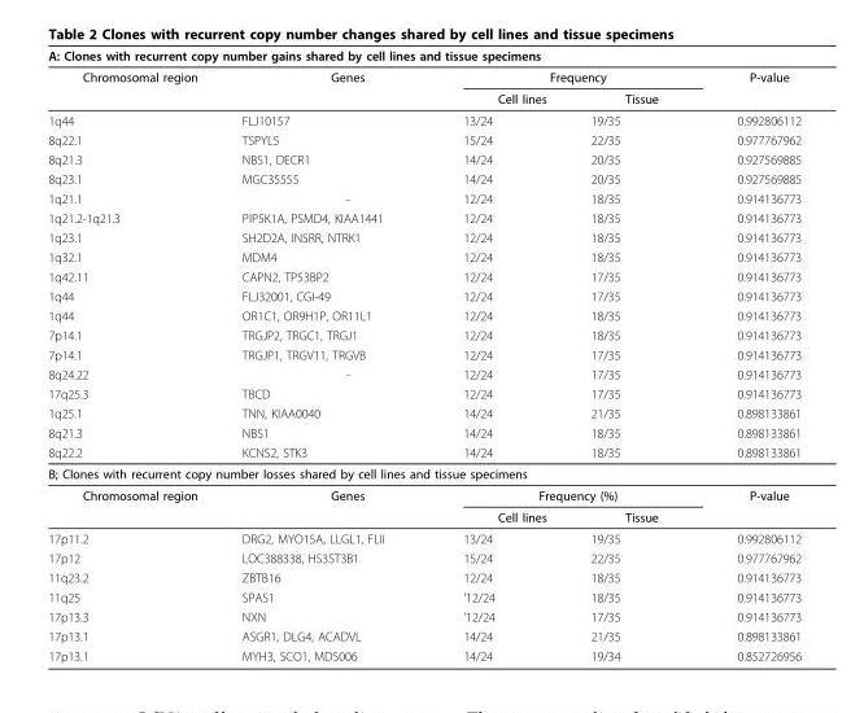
<table><thead><tr><td colspan="5">A: Clones with recurrent copy number gains shared by cell lines and tissue specimens</td></tr><tr><td rowspan="2">Chromosomal region</td><td rowspan="2">Genes</td><td colspan="2">Frequency</td><td rowspan="2">P-value</td></tr><tr><td>Cell lines</td><td>Tissue</td></tr></thead><tbody><tr><td>1q44</td><td>FLJ10157</td><td>13/24</td><td>19/35</td><td>0.992806112</td></tr><tr><td>8q22.1</td><td>TSPYL5</td><td>15/24</td><td>22/35</td><td>0.977767962</td></tr><tr><td>8q21.3</td><td>NBS1, DECR1</td><td>14/24</td><td>20/35</td><td>0.927569885</td></tr><tr><td>8q23.1</td><td>MGC35555</td><td>14/24</td><td>20/35</td><td>0.927569885</td></tr><tr><td>1q21.1</td><td>-</td><td>12/24</td><td>18/35</td><td>0.914136773</td></tr><tr><td>1q21.2-1q21.3</td><td>PIP5K1A, PSMD4, KIAA1441</td><td>12/24</td><td>18/35</td><td>0.914136773</td></tr><tr><td>1q23.1</td><td>SH2D2A, INSRR, NTRK1</td><td>12/24</td><td>18/35</td><td>0.914136773</td></tr><tr><td>1q32.1</td><td>MDM4</td><td>12/24</td><td>18/35</td><td>0.914136773</td></tr><tr><td>1q42.11</td><td>CAPN2, TP53BP2</td><td>12/24</td><td>17/35</td><td>0.914136773</td></tr><tr><td>1q44</td><td>FLJ32001, CGI-49</td><td>12/24</td><td>17/35</td><td>0.914136773</td></tr><tr><td>1q44</td><td>OR1C1, OR9H1P, OR11L1</td><td>12/24</td><td>18/35</td><td>0.914136773</td></tr><tr><td>7p14.1</td><td>TRGJP2, TRGC1, TRGJ1</td><td>12/24</td><td>18/35</td><td>0.914136773</td></tr><tr><td>7p14.1</td><td>TRGJP1, TRGV11, TRGVB</td><td>12/24</td><td>17/35</td><td>0.914136773</td></tr><tr><td>8q24.22</td><td>-</td><td>12/24</td><td>17/35</td><td>0.914136773</td></tr><tr><td>17q25.3</td><td>TBCD</td><td>12/24</td><td>17/35</td><td>0.914136773</td></tr><tr><td>1q25.1</td><td>TNN, KIAA0040</td><td>14/24</td><td>21/35</td><td>0.898133861</td></tr><tr><td>8q21.3</td><td>NBS1</td><td>14/24</td><td>18/35</td><td>0.898133861</td></tr><tr><td>8q22.2</td><td>KCNS2, STK3</td><td>14/24</td><td>18/35</td><td>0.898133861</td></tr><tr><td colspan="5">B; Clones with recurrent copy number losses shared by cell lines and tissue specimens</td></tr><tr><td rowspan="2">Chromosomal region</td><td>Genes</td><td colspan="2">Frequency (%)</td><td>P-value</td></tr><tr><td></td><td>Cell lines</td><td>Tissue</td><td></td></tr><tr><td>17p11.2</td><td>DRG2, MYO15A, LLGL1, FLII</td><td>13/24</td><td>19/35</td><td>0.992806112</td></tr><tr><td>17p12</td><td>LOC388338, HS3ST3B1</td><td>15/24</td><td>22/35</td><td>0.977767962</td></tr><tr><td>11q23.2</td><td>ZBTB16</td><td>12/24</td><td>18/35</td><td>0.914136773</td></tr><tr><td>11q25</td><td>SPAS1</td><td>’12/24</td><td>18/35</td><td>0.914136773</td></tr><tr><td>17p13.3</td><td>NXN</td><td>’12/24</td><td>17/35</td><td>0.914136773</td></tr><tr><td>17p13.1</td><td>ASGR1, DLG4, ACADVL</td><td>14/24</td><td>21/35</td><td>0.898133861</td></tr><tr><td>17p13.1</td><td>MYH3, SCO1, MDS006</td><td>14/24</td><td>19/34</td><td>0.852726956</td></tr></tbody></table>